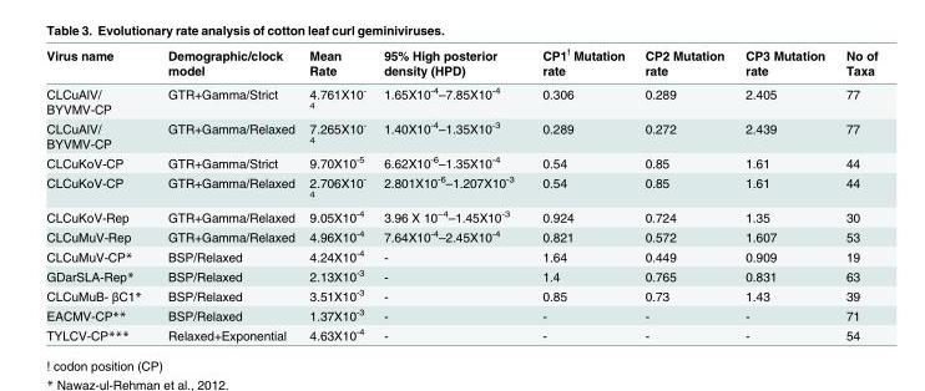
<table><thead><tr><td>Virus name</td><td>Demographic/clock model</td><td>Mean Rate</td><td>95% High posterior density (HPD)</td><td>CP1<sup>!</sup> Mutation rate</td><td>CP2 Mutation rate</td><td>CP3 Mutation rate</td><td>No of Taxa</td></tr></thead><tbody><tr><td>CLCuAlV/ BYVMV-CP</td><td>GTR+Gamma/Strict</td><td>4.761X10<sup>- 4</sup></td><td>1.65X10<sup>-4</sup>–7.85X10<sup>-4</sup></td><td>0.306</td><td>0.289</td><td>2.405</td><td>77</td></tr><tr><td>CLCuAlV/ BYVMV-CP</td><td>GTR+Gamma/Relaxed</td><td>7.265X10<sup>- 4</sup></td><td>1.40X10<sup>-4</sup>–1.35X10<sup>-3</sup></td><td>0.289</td><td>0.272</td><td>2.439</td><td>77</td></tr><tr><td>CLCuKoV-CP</td><td>GTR+Gamma/Strict</td><td>9.70X10<sup>-5</sup></td><td>6.62X10<sup>-6</sup>–1.35X10<sup>-4</sup></td><td>0.54</td><td>0.85</td><td>1.61</td><td>44</td></tr><tr><td>CLCuKoV-CP</td><td>GTR+Gamma/Relaxed</td><td>2.706X10<sup>- 4</sup></td><td>2.801X10<sup>-6</sup>–1.207X10<sup>-3</sup></td><td>0.54</td><td>0.85</td><td>1.61</td><td>44</td></tr><tr><td>CLCuKoV-Rep</td><td>GTR+Gamma/Relaxed</td><td>9.05X10<sup>-4</sup></td><td>3.96 X 10<sup>−4</sup>–1.45X10<sup>-3</sup></td><td>0.924</td><td>0.724</td><td>1.35</td><td>30</td></tr><tr><td>CLCuMuV-Rep</td><td>GTR+Gamma/Relaxed</td><td>4.96X10<sup>-4</sup></td><td>7.64X10<sup>-4</sup>–2.45X10<sup>-4</sup></td><td>0.821</td><td>0.572</td><td>1.607</td><td>53</td></tr><tr><td>CLCuMuV-CP*</td><td>BSP/Relaxed</td><td>4.24X10<sup>-4</sup></td><td>-</td><td>1.64</td><td>0.449</td><td>0.909</td><td>19</td></tr><tr><td>GDarSLA-Rep*</td><td>BSP/Relaxed</td><td>2.13X10<sup>-3</sup></td><td>-</td><td>1.4</td><td>0.765</td><td>0.831</td><td>63</td></tr><tr><td>CLCuMuB- βC1*</td><td>BSP/Relaxed</td><td>3.51X10<sup>-3</sup></td><td>-</td><td>0.85</td><td>0.73</td><td>1.43</td><td>39</td></tr><tr><td>EACMV-CP**</td><td>BSP/Relaxed</td><td>1.37X10<sup>-3</sup></td><td>-</td><td>-</td><td>-</td><td>-</td><td>71</td></tr><tr><td>TYLCV-CP***</td><td>Relaxed+Exponential</td><td>4.63X10<sup>-4</sup></td><td>-</td><td>-</td><td>-</td><td>-</td><td>54</td></tr></tbody></table>